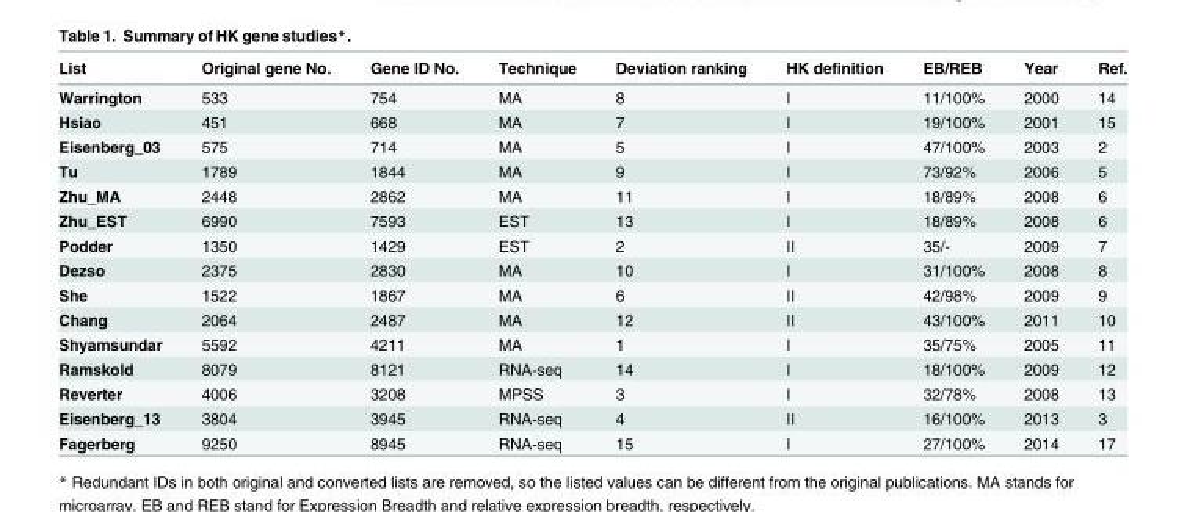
<table><thead><tr><td>List</td><td>Original gene No.</td><td>Gene ID No.</td><td>Technique</td><td>Deviation ranking</td><td>HK definition</td><td>EB/REB</td><td>Year</td><td>Ref.</td></tr></thead><tbody><tr><td>Warrington</td><td>533</td><td>754</td><td>MA</td><td>8</td><td>Ⅰ</td><td>11/100%</td><td>2000</td><td>14</td></tr><tr><td>Hsiao</td><td>451</td><td>668</td><td>MA</td><td>7</td><td>Ⅰ</td><td>19/100%</td><td>2001</td><td>15</td></tr><tr><td>Eisenberg_03</td><td>575</td><td>714</td><td>MA</td><td>5</td><td>Ⅰ</td><td>47/100%</td><td>2003</td><td>2</td></tr><tr><td>Tu</td><td>1789</td><td>1844</td><td>MA</td><td>9</td><td>Ⅰ</td><td>73/92%</td><td>2006</td><td>5</td></tr><tr><td>Zhu_MA</td><td>2448</td><td>2862</td><td>MA</td><td>11</td><td>Ⅰ</td><td>18/89%</td><td>2008</td><td>6</td></tr><tr><td>Zhu_EST</td><td>6990</td><td>7593</td><td>EST</td><td>13</td><td>Ⅰ</td><td>18/89%</td><td>2008</td><td>6</td></tr><tr><td>Podder</td><td>1350</td><td>1429</td><td>EST</td><td>2</td><td>Ⅱ</td><td>35/-</td><td>2009</td><td>7</td></tr><tr><td>Dezso</td><td>2375</td><td>2830</td><td>MA</td><td>10</td><td>Ⅰ</td><td>31/100%</td><td>2008</td><td>8</td></tr><tr><td>She</td><td>1522</td><td>1867</td><td>MA</td><td>6</td><td>Ⅱ</td><td>42/98%</td><td>2009</td><td>9</td></tr><tr><td>Chang</td><td>2064</td><td>2487</td><td>MA</td><td>12</td><td>Ⅱ</td><td>43/100%</td><td>2011</td><td>10</td></tr><tr><td>Shyamsundar</td><td>5592</td><td>4211</td><td>MA</td><td>1</td><td>Ⅰ</td><td>35/75%</td><td>2005</td><td>11</td></tr><tr><td>Ramskold</td><td>8079</td><td>8121</td><td>RNA-seq</td><td>14</td><td>Ⅰ</td><td>18/100%</td><td>2009</td><td>12</td></tr><tr><td>Reverter</td><td>4006</td><td>3208</td><td>MPSS</td><td>3</td><td>Ⅰ</td><td>32/78%</td><td>2008</td><td>13</td></tr><tr><td>Eisenberg_13</td><td>3804</td><td>3945</td><td>RNA-seq</td><td>4</td><td>Ⅱ</td><td>16/100%</td><td>2013</td><td>3</td></tr><tr><td>Fagerberg</td><td>9250</td><td>8945</td><td>RNA-seq</td><td>15</td><td>Ⅰ</td><td>27/100%</td><td>2014</td><td>17</td></tr></tbody></table>